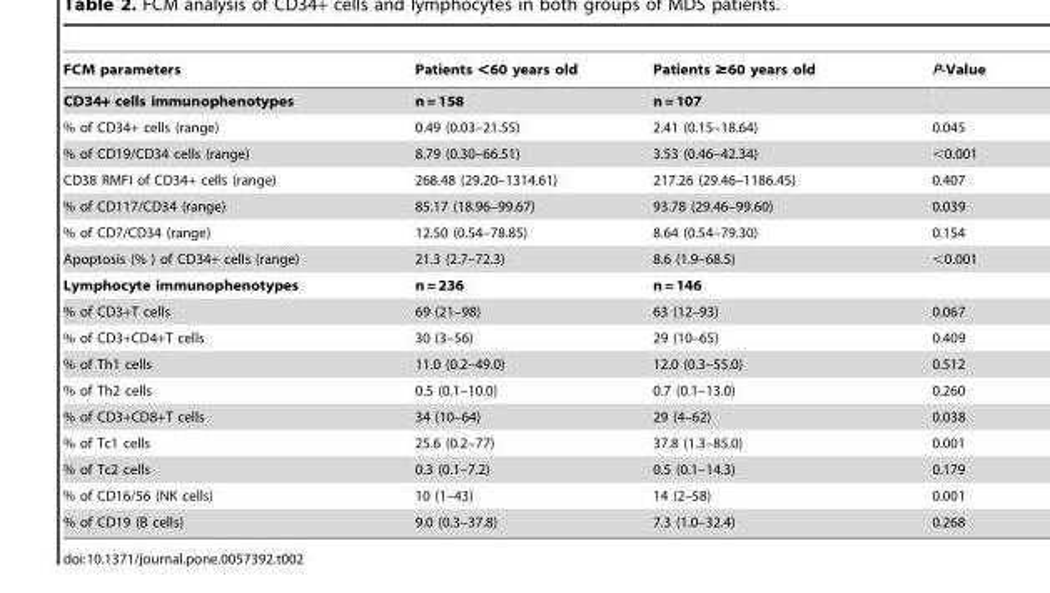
<table><thead><tr><td>FCM parameters</td><td>Patients &lt;60 years old</td><td>Patients ≥60 years old</td><td>P-Value</td></tr></thead><tbody><tr><td>CD34+ cells immunophenotypes</td><td>n = 158</td><td>n = 107</td><td></td></tr><tr><td>% of CD34+ cells (range)</td><td>0.49 (0.03–21.55)</td><td>2.41 (0.15–18.64)</td><td>0.045</td></tr><tr><td>% of CD19/CD34 cells (range)</td><td>8.79 (0.30–66.51)</td><td>3.53 (0.46–42.34)</td><td>&lt;0.001</td></tr><tr><td>CD38 RMFI of CD34+ cells (range)</td><td>268.48 (29.20–1314.61)</td><td>217.26 (29.46–1186.45)</td><td>0.407</td></tr><tr><td>% of CD117/CD34 (range)</td><td>85.17 (18.96–99.67)</td><td>93.78 (29.46–99.60)</td><td>0.039</td></tr><tr><td>% of CD7/CD34 (range)</td><td>12.50 (0.54–78.85)</td><td>8.64 (0.54–79.30)</td><td>0.154</td></tr><tr><td>Apoptosis (% ) of CD34+ cells (range)</td><td>21.3 (2.7–72.3)</td><td>8.6 (1.9–68.5)</td><td>&lt;0.001</td></tr><tr><td>Lymphocyte immunophenotypes</td><td>n = 236</td><td>n = 146</td><td></td></tr><tr><td>% of CD3+T cells</td><td>69 (21–98)</td><td>63 (12–93)</td><td>0.067</td></tr><tr><td>% of CD3+CD4+T cells</td><td>30 (3–56)</td><td>29 (10–65)</td><td>0.409</td></tr><tr><td>% of Th1 cells</td><td>11.0 (0.2–49.0)</td><td>12.0 (0.3–55.0)</td><td>0.512</td></tr><tr><td>% of Th2 cells</td><td>0.5 (0.1–10.0)</td><td>0.7 (0.1–13.0)</td><td>0.260</td></tr><tr><td>% of CD3+CD8+T cells</td><td>34 (10–64)</td><td>29 (4–62)</td><td>0.038</td></tr><tr><td>% of Tc1 cells</td><td>25.6 (0.2–77)</td><td>37.8 (1.3–85.0)</td><td>0.001</td></tr><tr><td>% of Tc2 cells</td><td>0.3 (0.1–7.2)</td><td>0.5 (0.1–14.3)</td><td>0.179</td></tr><tr><td>% of CD16/56 (NK cells)</td><td>10 (1–43)</td><td>14 (2–58)</td><td>0.001</td></tr><tr><td>% of CD19 (B cells)</td><td>9.0 (0.3–37.8)</td><td>7.3 (1.0–32.4)</td><td>0.268</td></tr></tbody></table>